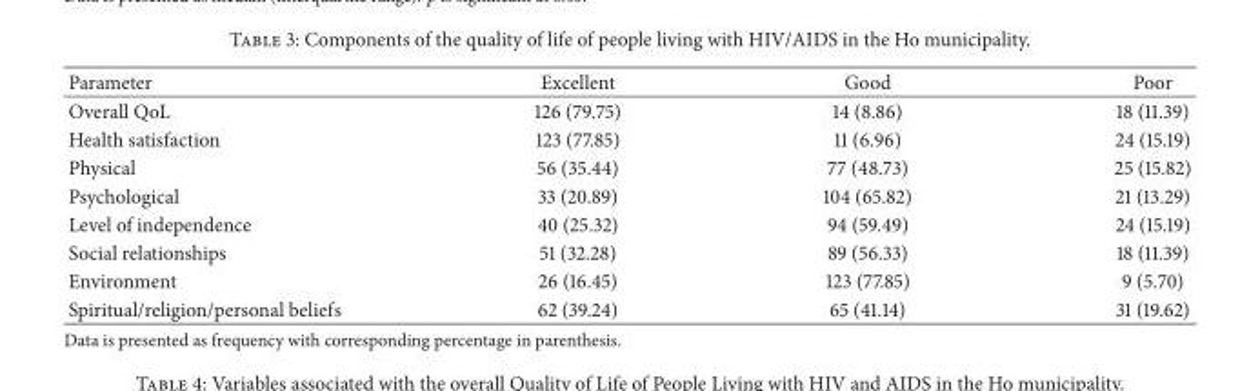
<table><thead><tr><td>Parameter</td><td>Excellent</td><td>Good</td><td>Poor</td></tr></thead><tbody><tr><td>Overall QoL</td><td>126 (79.75)</td><td>14 (8.86)</td><td>18 (11.39)</td></tr><tr><td>Health satisfaction</td><td>123 (77.85)</td><td>11 (6.96)</td><td>24 (15.19)</td></tr><tr><td>Physical</td><td>56 (35.44)</td><td>77 (48.73)</td><td>25 (15.82)</td></tr><tr><td>Psychological</td><td>33 (20.89)</td><td>104 (65.82)</td><td>21 (13.29)</td></tr><tr><td>Level of independence</td><td>40 (25.32)</td><td>94 (59.49)</td><td>24 (15.19)</td></tr><tr><td>Social relationships</td><td>51 (32.28)</td><td>89 (56.33)</td><td>18 (11.39)</td></tr><tr><td>Environment</td><td>26 (16.45)</td><td>123 (77.85)</td><td>9 (5.70)</td></tr><tr><td>Spiritual/religion/personal beliefs</td><td>62 (39.24)</td><td>65 (41.14)</td><td>31 (19.62)</td></tr></tbody></table>